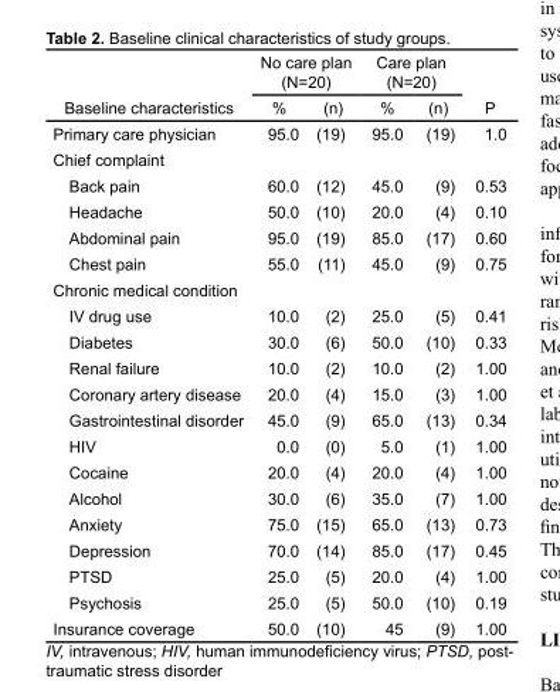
<table><thead><tr><td rowspan="2">Baseline characteristics</td><td colspan="2">No care plan (N=20)</td><td colspan="2">Care plan (N=20)</td><td rowspan="2">P</td></tr><tr><td>%</td><td>(n)</td><td>%</td><td>(n)</td></tr></thead><tbody><tr><td>Primary care physician</td><td>95.0</td><td>(19)</td><td>95.0</td><td>(19)</td><td>1.0</td></tr><tr><td colspan="6">Chief complaint</td></tr><tr><td>Back pain</td><td>60.0</td><td>(12)</td><td>45.0</td><td>(9)</td><td>0.53</td></tr><tr><td>Headache</td><td>50.0</td><td>(10)</td><td>20.0</td><td>(4)</td><td>0.10</td></tr><tr><td>Abdominal pain</td><td>95.0</td><td>(19)</td><td>85.0</td><td>(17)</td><td>0.60</td></tr><tr><td>Chest pain</td><td>55.0</td><td>(11)</td><td>45.0</td><td>(9)</td><td>0.75</td></tr><tr><td colspan="6">Chronic medical condition</td></tr><tr><td>IV drug use</td><td>10.0</td><td>(2)</td><td>25.0</td><td>(5)</td><td>0.41</td></tr><tr><td>Diabetes</td><td>30.0</td><td>(6)</td><td>50.0</td><td>(10)</td><td>0.33</td></tr><tr><td>Renal failure</td><td>10.0</td><td>(2)</td><td>10.0</td><td>(2)</td><td>1.00</td></tr><tr><td>Coronary artery disease</td><td>20.0</td><td>(4)</td><td>15.0</td><td>(3)</td><td>1.00</td></tr><tr><td>Gastrointestinal disorder</td><td>45.0</td><td>(9)</td><td>65.0</td><td>(13)</td><td>0.34</td></tr><tr><td>HIV</td><td>0.0</td><td>(0)</td><td>5.0</td><td>(1)</td><td>1.00</td></tr><tr><td>Cocaine</td><td>20.0</td><td>(4)</td><td>20.0</td><td>(4)</td><td>1.00</td></tr><tr><td>Alcohol</td><td>30.0</td><td>(6)</td><td>35.0</td><td>(7)</td><td>1.00</td></tr><tr><td>Anxiety</td><td>75.0</td><td>(15)</td><td>65.0</td><td>(13)</td><td>0.73</td></tr><tr><td>Depression</td><td>70.0</td><td>(14)</td><td>85.0</td><td>(17)</td><td>0.45</td></tr><tr><td>PTSD</td><td>25.0</td><td>(5)</td><td>20.0</td><td>(4)</td><td>1.00</td></tr><tr><td>Psychosis</td><td>25.0</td><td>(5)</td><td>50.0</td><td>(10)</td><td>0.19</td></tr><tr><td>Insurance coverage</td><td>50.0</td><td>(10)</td><td>45</td><td>(9)</td><td>1.00</td></tr></tbody></table>